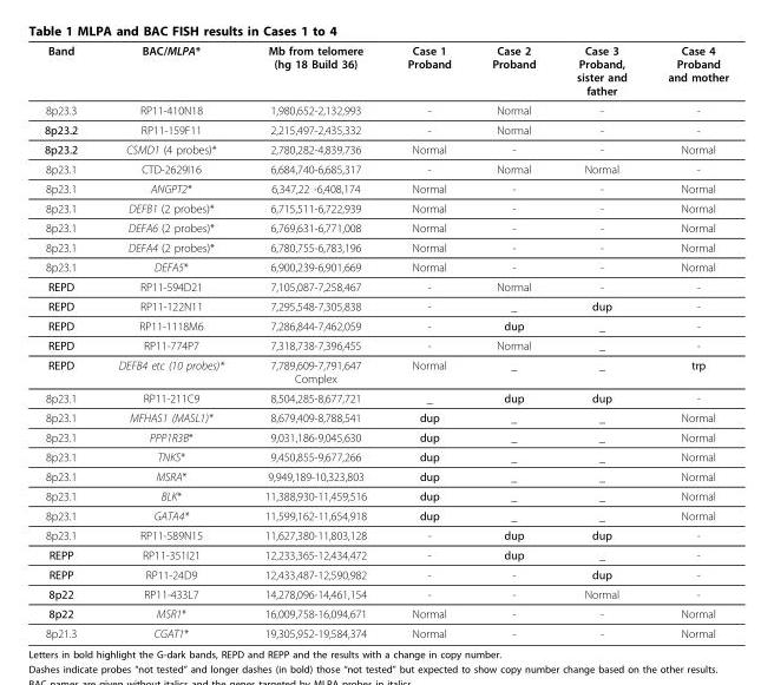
<table><thead><tr><td>Band</td><td>BAC/MLPA*</td><td>Mb from telomere (hg 18 Build 36)</td><td>Case 1 Proband</td><td>Case 2 Proband</td><td>Case 3 Proband, sister and father</td><td>Case 4 Proband and mother</td></tr></thead><tbody><tr><td>8p23.3</td><td>RP11-410N18</td><td>1,980,652-2,132,993</td><td>-</td><td>Normal</td><td>-</td><td>-</td></tr><tr><td>8p23.2</td><td>RP11-159F11</td><td>2,215,497-2,435,332</td><td>-</td><td>Normal</td><td>-</td><td>-</td></tr><tr><td>8p23.2</td><td>CSMD1 (4 probes)*</td><td>2,780,282-4,839,736</td><td>Normal</td><td>-</td><td>-</td><td>Normal</td></tr><tr><td>8p23.1</td><td>CTD-2629I16</td><td>6,684,740-6,685,317</td><td>-</td><td>Normal</td><td>Normal</td><td>-</td></tr><tr><td>8p23.1</td><td>ANGPT2*</td><td>6,347,22 -6,408,174</td><td>Normal</td><td>-</td><td>-</td><td>Normal</td></tr><tr><td>8p23.1</td><td>DEFB1 (2 probes)*</td><td>6,715,511-6,722,939</td><td>Normal</td><td>-</td><td>-</td><td>Normal</td></tr><tr><td>8p23.1</td><td>DEFA6 (2 probes)*</td><td>6,769,631-6,771,008</td><td>Normal</td><td>-</td><td>-</td><td>Normal</td></tr><tr><td>8p23.1</td><td>DEFA4 (2 probes)*</td><td>6,780,755-6,783,196</td><td>Normal</td><td>-</td><td>-</td><td>Normal</td></tr><tr><td>8p23.1</td><td>DEFA5*</td><td>6,900,239-6,901,669</td><td>Normal</td><td>-</td><td>-</td><td>Normal</td></tr><tr><td>REPD</td><td>RP11-594D21</td><td>7,105,087-7,258,467</td><td>-</td><td>Normal</td><td>-</td><td>-</td></tr><tr><td>REPD</td><td>RP11-122N11</td><td>7,295,548-7,305,838</td><td>-</td><td>_</td><td>dup</td><td>-</td></tr><tr><td>REPD</td><td>RP11-1118M6</td><td>7,286,844-7,462,059</td><td>-</td><td>dup</td><td>_</td><td>-</td></tr><tr><td>REPD</td><td>RP11-774P7</td><td>7,318,738-7,396,455</td><td>-</td><td>Normal</td><td>_</td><td>-</td></tr><tr><td>REPD</td><td>DEFB4 etc (10 probes)*</td><td>7,789,609-7,791,647 Complex</td><td>Normal</td><td>_</td><td>_</td><td>trp</td></tr><tr><td>8p23.1</td><td>RP11-211C9</td><td>8,504,285-8,677,721</td><td>_</td><td>dup</td><td>dup</td><td>-</td></tr><tr><td>8p23.1</td><td>MFHAS1 (MASL1)*</td><td>8,679,409-8,788,541</td><td>dup</td><td>_</td><td>_</td><td>Normal</td></tr><tr><td>8p23.1</td><td>PPP1R3B*</td><td>9,031,186-9,045,630</td><td>dup</td><td>_</td><td>_</td><td>Normal</td></tr><tr><td>8p23.1</td><td>TNKS*</td><td>9,450,855-9,677,266</td><td>dup</td><td>_</td><td>_</td><td>Normal</td></tr><tr><td>8p23.1</td><td>MSRA*</td><td>9,949,189-10,323,803</td><td>dup</td><td>_</td><td>_</td><td>Normal</td></tr><tr><td>8p23.1</td><td>BLK*</td><td>11,388,930-11,459,516</td><td>dup</td><td>_</td><td>_</td><td>Normal</td></tr><tr><td>8p23.1</td><td>GATA4*</td><td>11,599,162-11,654,918</td><td>dup</td><td>_</td><td>_</td><td>Normal</td></tr><tr><td>8p23.1</td><td>RP11-589N15</td><td>11,627,380-11,803,128</td><td>-</td><td>dup</td><td>dup</td><td>-</td></tr><tr><td>REPP</td><td>RP11-351I21</td><td>12,233,365-12,434,472</td><td>-</td><td>dup</td><td>_</td><td>-</td></tr><tr><td>REPP</td><td>RP11-24D9</td><td>12,433,487-12,590,982</td><td>-</td><td>-</td><td>dup</td><td>-</td></tr><tr><td>8p22</td><td>RP11-433L7</td><td>14,278,096-14,461,154</td><td>-</td><td>-</td><td>Normal</td><td>-</td></tr><tr><td>8p22</td><td>MSR1*</td><td>16,009,758-16,094,671</td><td>Normal</td><td>-</td><td>-</td><td>Normal</td></tr><tr><td>8p21.3</td><td>CGAT1*</td><td>19,305,952-19,584,374</td><td>Normal</td><td>-</td><td>-</td><td>Normal</td></tr></tbody></table>